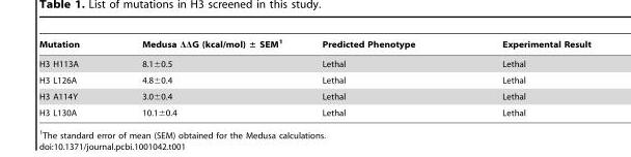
<table><thead><tr><td>Mutation</td><td>Medusa ΔΔG (kcal/mol) ± SEM<sup>1</sup></td><td>Predicted Phenotype</td><td>Experimental Result</td></tr></thead><tbody><tr><td>H3 H113A</td><td>8.1±0.5</td><td>Lethal</td><td>Lethal</td></tr><tr><td>H3 L126A</td><td>4.8±0.4</td><td>Lethal</td><td>Lethal</td></tr><tr><td>H3 A114Y</td><td>3.0±0.4</td><td>Lethal</td><td>Lethal</td></tr><tr><td>H3 L130A</td><td>10.1±0.4</td><td>Lethal</td><td>Lethal</td></tr></tbody></table>